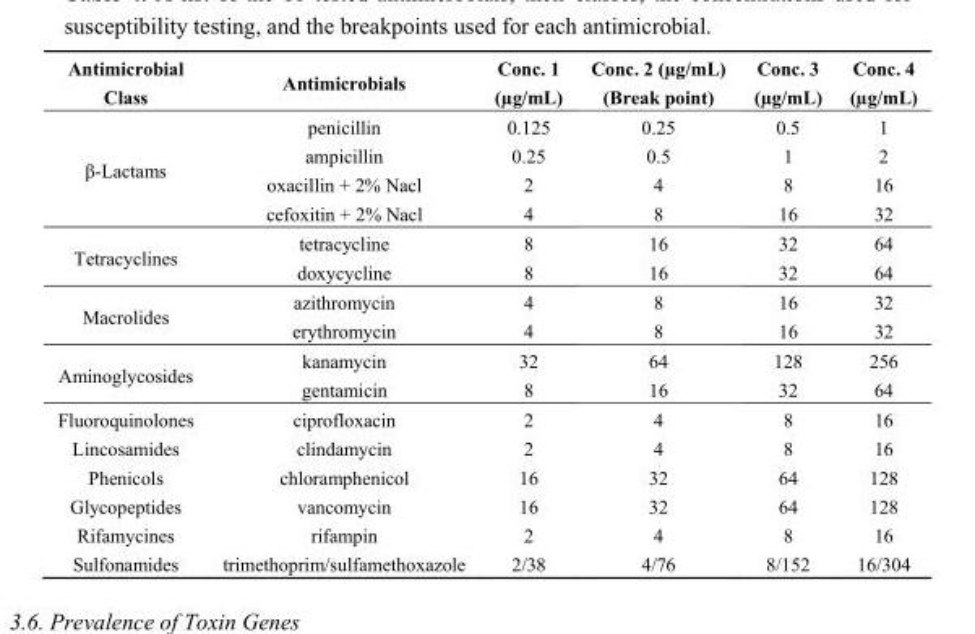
<table><thead><tr><td>Antimicrobial Class</td><td>Antimicrobials</td><td>Conc. 1 (µg/mL)</td><td>Conc. 2 (µg/mL) (Break point)</td><td>Conc. 3 (µg/mL)</td><td>Conc. 4 (µg/mL)</td></tr></thead><tbody><tr><td rowspan="4">β-Lactams</td><td>penicillin</td><td>0.125</td><td>0.25</td><td>0.5</td><td>1</td></tr><tr><td>ampicillin</td><td>0.25</td><td>0.5</td><td>1</td><td>2</td></tr><tr><td>oxacillin + 2% Nacl</td><td>2</td><td>4</td><td>8</td><td>16</td></tr><tr><td>cefoxitin + 2% Nacl</td><td>4</td><td>8</td><td>16</td><td>32</td></tr><tr><td rowspan="2">Tetracyclines</td><td>tetracycline</td><td>8</td><td>16</td><td>32</td><td>64</td></tr><tr><td>doxycycline</td><td>8</td><td>16</td><td>32</td><td>64</td></tr><tr><td rowspan="2">Macrolides</td><td>azithromycin</td><td>4</td><td>8</td><td>16</td><td>32</td></tr><tr><td>erythromycin</td><td>4</td><td>8</td><td>16</td><td>32</td></tr><tr><td rowspan="2">Aminoglycosides</td><td>kanamycin</td><td>32</td><td>64</td><td>128</td><td>256</td></tr><tr><td>gentamicin</td><td>8</td><td>16</td><td>32</td><td>64</td></tr><tr><td>Fluoroquinolones</td><td>ciprofloxacin</td><td>2</td><td>4</td><td>8</td><td>16</td></tr><tr><td>Lincosamides</td><td>clindamycin</td><td>2</td><td>4</td><td>8</td><td>16</td></tr><tr><td>Phenicols</td><td>chloramphenicol</td><td>16</td><td>32</td><td>64</td><td>128</td></tr><tr><td>Glycopeptides</td><td>vancomycin</td><td>16</td><td>32</td><td>64</td><td>128</td></tr><tr><td>Rifamycines</td><td>rifampin</td><td>2</td><td>4</td><td>8</td><td>16</td></tr><tr><td>Sulfonamides</td><td>trimethoprim/sulfamethoxazole</td><td>2/38</td><td>4/76</td><td>8/152</td><td>16/304</td></tr></tbody></table>